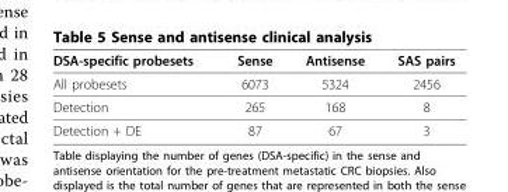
<table><thead><tr><td>DSA-specific probesets</td><td>Sense</td><td>Antisense</td><td>SAS pairs</td></tr></thead><tbody><tr><td>All probesets</td><td>6073</td><td>5324</td><td>2456</td></tr><tr><td>Detection</td><td>265</td><td>168</td><td>8</td></tr><tr><td>Detection + DE</td><td>87</td><td>67</td><td>3</td></tr></tbody></table>